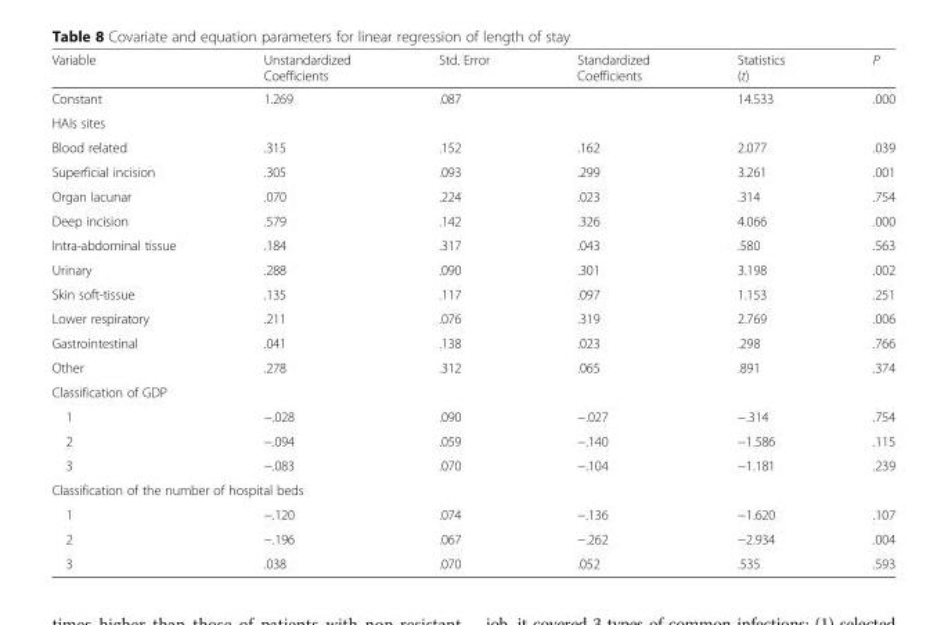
<table><thead><tr><td>Variable</td><td>Unstandardized Coefficients</td><td>Std. Error</td><td>Standardized Coefficients</td><td>Statistics (t)</td><td>P</td></tr></thead><tbody><tr><td>Constant</td><td>1.269</td><td>.087</td><td></td><td>14.533</td><td>.000</td></tr><tr><td colspan="6">HAIs sites</td></tr><tr><td>Blood related</td><td>.315</td><td>.152</td><td>.162</td><td>2.077</td><td>.039</td></tr><tr><td>Superficial incision</td><td>.305</td><td>.093</td><td>.299</td><td>3.261</td><td>.001</td></tr><tr><td>Organ lacunar</td><td>.070</td><td>.224</td><td>.023</td><td>.314</td><td>.754</td></tr><tr><td>Deep incision</td><td>.579</td><td>.142</td><td>.326</td><td>4.066</td><td>.000</td></tr><tr><td>Intra-abdominal tissue</td><td>.184</td><td>.317</td><td>.043</td><td>.580</td><td>.563</td></tr><tr><td>Urinary</td><td>.288</td><td>.090</td><td>.301</td><td>3.198</td><td>.002</td></tr><tr><td>Skin soft-tissue</td><td>.135</td><td>.117</td><td>.097</td><td>1.153</td><td>.251</td></tr><tr><td>Lower respiratory</td><td>.211</td><td>.076</td><td>.319</td><td>2.769</td><td>.006</td></tr><tr><td>Gastrointestinal</td><td>.041</td><td>.138</td><td>.023</td><td>.298</td><td>.766</td></tr><tr><td>Other</td><td>.278</td><td>.312</td><td>.065</td><td>.891</td><td>.374</td></tr><tr><td colspan="6">Classification of GDP</td></tr><tr><td>1</td><td>−.028</td><td>.090</td><td>−.027</td><td>−.314</td><td>.754</td></tr><tr><td>2</td><td>−.094</td><td>.059</td><td>−.140</td><td>−1.586</td><td>.115</td></tr><tr><td>3</td><td>−.083</td><td>.070</td><td>−.104</td><td>−1.181</td><td>.239</td></tr><tr><td colspan="6">Classification of the number of hospital beds</td></tr><tr><td>1</td><td>−.120</td><td>.074</td><td>−.136</td><td>−1.620</td><td>.107</td></tr><tr><td>2</td><td>−.196</td><td>.067</td><td>−.262</td><td>−2.934</td><td>.004</td></tr><tr><td>3</td><td>.038</td><td>.070</td><td>.052</td><td>.535</td><td>.593</td></tr></tbody></table>